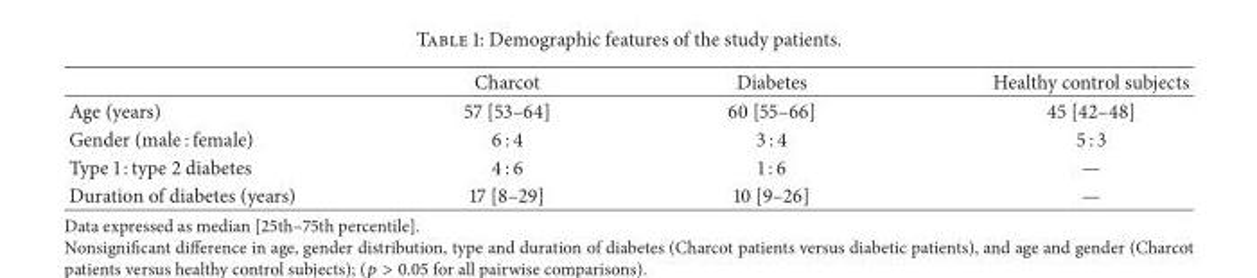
<table><thead><tr><td></td><td>Charcot</td><td>Diabetes</td><td>Healthy control subjects</td></tr></thead><tbody><tr><td>Age (years)</td><td>57 [53–64]</td><td>60 [55–66]</td><td>45 [42–48]</td></tr><tr><td>Gender (male : female)</td><td>6 : 4</td><td>3 : 4</td><td>5 : 3</td></tr><tr><td>Type 1 : type 2 diabetes</td><td>4 : 6</td><td>1 : 6</td><td>—</td></tr><tr><td>Duration of diabetes (years)</td><td>17 [8–29]</td><td>10 [9–26]</td><td>—</td></tr></tbody></table>